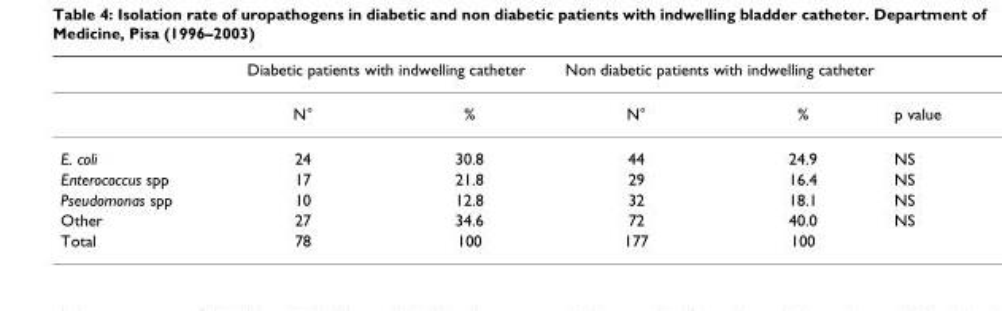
<table><thead><tr><td rowspan="2"></td><td colspan="2">Diabetic patients with indwelling catheter</td><td colspan="2">Non diabetic patients with indwelling catheter</td><td rowspan="2">p value</td></tr><tr><td>N°</td><td>%</td><td>N°</td><td>%</td></tr></thead><tbody><tr><td>E. coli</td><td>24</td><td>30.8</td><td>44</td><td>24.9</td><td>NS</td></tr><tr><td>Enterococcus spp</td><td>17</td><td>21.8</td><td>29</td><td>16.4</td><td>NS</td></tr><tr><td>Pseudomonas spp</td><td>10</td><td>12.8</td><td>32</td><td>18.1</td><td>NS</td></tr><tr><td>Other</td><td>27</td><td>34.6</td><td>72</td><td>40.0</td><td>NS</td></tr><tr><td>Total</td><td>78</td><td>100</td><td>177</td><td>100</td><td></td></tr></tbody></table>